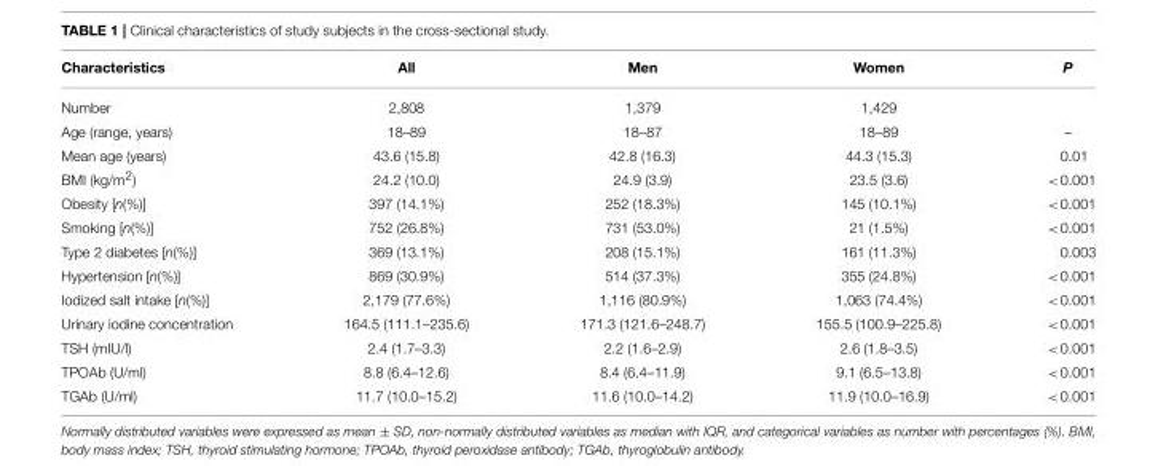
<table><thead><tr><td>Characteristics</td><td>All</td><td>Men</td><td>Women</td><td>P</td></tr></thead><tbody><tr><td>Number</td><td>2,808</td><td>1,379</td><td>1,429</td><td></td></tr><tr><td>Age (range, years)</td><td>18–89</td><td>18–87</td><td>18–89</td><td>–</td></tr><tr><td>Mean age (years)</td><td>43.6 (15.8)</td><td>42.8 (16.3)</td><td>44.3 (15.3)</td><td>0.01</td></tr><tr><td>BMI (kg/m<sup>2</sup>)</td><td>24.2 (10.0)</td><td>24.9 (3.9)</td><td>23.5 (3.6)</td><td>&lt;0.001</td></tr><tr><td>Obesity [n(%)]</td><td>397 (14.1%)</td><td>252 (18.3%)</td><td>145 (10.1%)</td><td>&lt;0.001</td></tr><tr><td>Smoking [n(%)]</td><td>752 (26.8%)</td><td>731 (53.0%)</td><td>21 (1.5%)</td><td>&lt;0.001</td></tr><tr><td>Type 2 diabetes [n(%)]</td><td>369 (13.1%)</td><td>208 (15.1%)</td><td>161 (11.3%)</td><td>0.003</td></tr><tr><td>Hypertension [n(%)]</td><td>869 (30.9%)</td><td>514 (37.3%)</td><td>355 (24.8%)</td><td>&lt;0.001</td></tr><tr><td>Iodized salt intake [n(%)]</td><td>2,179 (77.6%)</td><td>1,116 (80.9%)</td><td>1,063 (74.4%)</td><td>&lt;0.001</td></tr><tr><td>Urinary iodine concentration</td><td>164.5 (111.1–235.6)</td><td>171.3 (121.6–248.7)</td><td>155.5 (100.9–225.8)</td><td>&lt;0.001</td></tr><tr><td>TSH (mIU/l)</td><td>2.4 (1.7–3.3)</td><td>2.2 (1.6–2.9)</td><td>2.6 (1.8–3.5)</td><td>&lt;0.001</td></tr><tr><td>TPOAb (U/ml)</td><td>8.8 (6.4–12.6)</td><td>8.4 (6.4–11.9)</td><td>9.1 (6.5–13.8)</td><td>&lt;0.001</td></tr><tr><td>TGAb (U/ml)</td><td>11.7 (10.0–15.2)</td><td>11.6 (10.0–14.2)</td><td>11.9 (10.0–16.9)</td><td>&lt;0.001</td></tr></tbody></table>